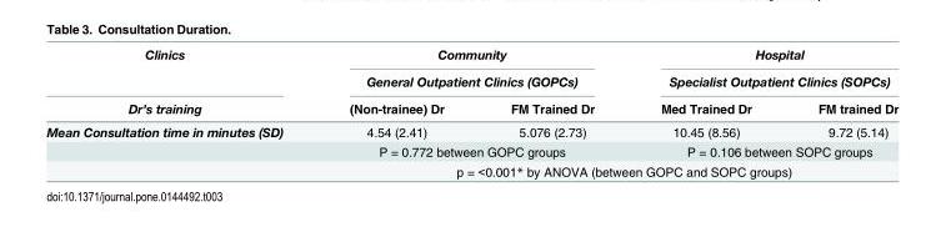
<table><thead><tr><td rowspan="3">Clinics Dr’s training</td><td rowspan="2" colspan="2">Community General Outpatient Clinics (GOPCs)</td><td rowspan="2" colspan="2">Hospital Specialist Outpatient Clinics (SOPCs)</td></tr><tr></tr><tr><td>(Non-trainee) Dr</td><td>FM Trained Dr</td><td>Med Trained Dr</td><td>FM trained Dr</td></tr></thead><tbody><tr><td rowspan="3">Mean Consultation time in minutes (SD)</td><td>4.54 (2.41)</td><td>5.076 (2.73)</td><td>10.45 (8.56)</td><td>9.72 (5.14)</td></tr><tr><td colspan="2">P = 0.772 between GOPC groups</td><td colspan="2">P = 0.106 between SOPC groups</td></tr><tr><td colspan="4">p = &lt;0.001* by ANOVA (between GOPC and SOPC groups)</td></tr></tbody></table>